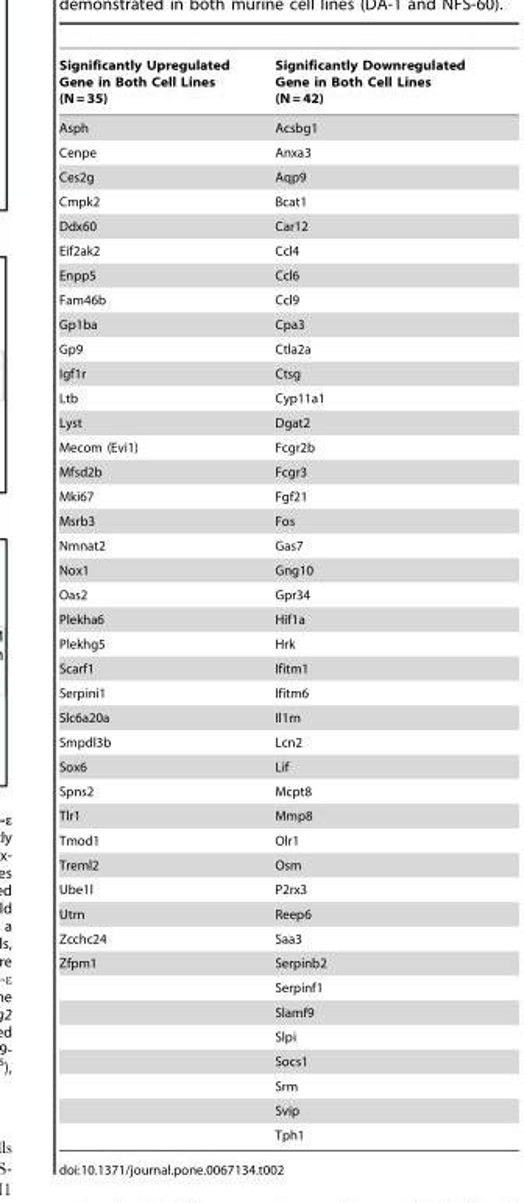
<table><thead><tr><td>Significantly Upregulated Gene in Both Cell Lines (N = 35)</td><td>Significantly Downregulated Gene in Both Cell Lines (N = 42)</td></tr></thead><tbody><tr><td>Asph</td><td>Acsbg1</td></tr><tr><td>Cenpe</td><td>Anxa3</td></tr><tr><td>Ces2g</td><td>Aqp9</td></tr><tr><td>Cmpk2</td><td>Bcat1</td></tr><tr><td>Ddx60</td><td>Car12</td></tr><tr><td>Eif2ak2</td><td>Ccl4</td></tr><tr><td>Enpp5</td><td>Ccl6</td></tr><tr><td>Fam46b</td><td>Ccl9</td></tr><tr><td>Gp1ba</td><td>Cpa3</td></tr><tr><td>Gp9</td><td>Ctla2a</td></tr><tr><td>Igf1r</td><td>Ctsg</td></tr><tr><td>Ltb</td><td>Cyp11a1</td></tr><tr><td>Lyst</td><td>Dgat2</td></tr><tr><td>Mecom (Evi1)</td><td>Fcgr2b</td></tr><tr><td>Mfsd2b</td><td>Fcgr3</td></tr><tr><td>Mki67</td><td>Fgf21</td></tr><tr><td>Msrb3</td><td>Fos</td></tr><tr><td>Nmnat2</td><td>Gas7</td></tr><tr><td>Nox1</td><td>Gng10</td></tr><tr><td>Oas2</td><td>Gpr34</td></tr><tr><td>Plekha6</td><td>Hif1a</td></tr><tr><td>Plekhg5</td><td>Hrk</td></tr><tr><td>Scarf1</td><td>Ifitm1</td></tr><tr><td>Serpini1</td><td>Ifitm6</td></tr><tr><td>Slc6a20a</td><td>Il1rn</td></tr><tr><td>Smpdl3b</td><td>Lcn2</td></tr><tr><td>Sox6</td><td>Lif</td></tr><tr><td>Spns2</td><td>Mcpt8</td></tr><tr><td>Tlr1</td><td>Mmp8</td></tr><tr><td>Tmod1</td><td>Olr1</td></tr><tr><td>Treml2</td><td>Osm</td></tr><tr><td>Ube1l</td><td>P2rx3</td></tr><tr><td>Utrn</td><td>Reep6</td></tr><tr><td>Zcchc24</td><td>Saa3</td></tr><tr><td rowspan="8">Zfpm1</td><td>Serpinb2</td></tr><tr><td>Serpinf1</td></tr><tr><td>Slamf9</td></tr><tr><td>Slpi</td></tr><tr><td>Socs1</td></tr><tr><td>Srm</td></tr><tr><td>Svip</td></tr><tr><td>Tph1</td></tr></tbody></table>